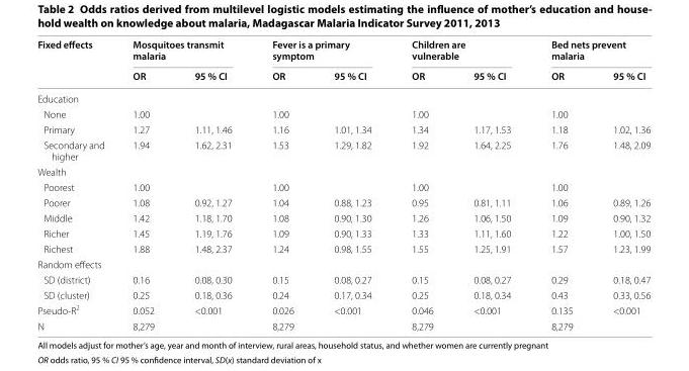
<table><thead><tr><td rowspan="2">Fixed effects</td><td colspan="2">Mosquitoes transmit malaria</td><td colspan="2">Fever is a primary symptom</td><td colspan="2">Children are vulnerable</td><td colspan="2">Bed nets prevent malaria</td></tr><tr><td>OR</td><td>95 % CI</td><td>OR</td><td>95 % CI</td><td>OR</td><td>95 % CI</td><td>OR</td><td>95 % CI</td></tr></thead><tbody><tr><td colspan="9">Education</td></tr><tr><td>None</td><td>1.00</td><td></td><td>1.00</td><td></td><td>1.00</td><td></td><td>1.00</td><td></td></tr><tr><td>Primary</td><td>1.27</td><td>1.11, 1.46</td><td>1.16</td><td>1.01, 1.34</td><td>1.34</td><td>1.17, 1.53</td><td>1.18</td><td>1.02, 1.36</td></tr><tr><td>Secondary and higher</td><td>1.94</td><td>1.62, 2.31</td><td>1.53</td><td>1.29, 1.82</td><td>1.92</td><td>1.64, 2.25</td><td>1.76</td><td>1.48, 2.09</td></tr><tr><td colspan="9">Wealth</td></tr><tr><td>Poorest</td><td>1.00</td><td></td><td>1.00</td><td></td><td>1.00</td><td></td><td>1.00</td><td></td></tr><tr><td>Poorer</td><td>1.08</td><td>0.92, 1.27</td><td>1.04</td><td>0.88, 1.23</td><td>0.95</td><td>0.81, 1.11</td><td>1.06</td><td>0.89, 1.26</td></tr><tr><td>Middle</td><td>1.42</td><td>1.18, 1.70</td><td>1.08</td><td>0.90, 1.30</td><td>1.26</td><td>1.06, 1.50</td><td>1.09</td><td>0.90, 1.32</td></tr><tr><td>Richer</td><td>1.45</td><td>1.19, 1.76</td><td>1.09</td><td>0.90, 1.33</td><td>1.33</td><td>1.11, 1.60</td><td>1.22</td><td>1.00, 1.50</td></tr><tr><td>Richest</td><td>1.88</td><td>1.48, 2.37</td><td>1.24</td><td>0.98, 1.55</td><td>1.55</td><td>1.25, 1.91</td><td>1.57</td><td>1.23, 1.99</td></tr><tr><td colspan="9">Random effects</td></tr><tr><td>SD (district)</td><td>0.16</td><td>0.08, 0.30</td><td>0.15</td><td>0.08, 0.27</td><td>0.15</td><td>0.08, 0.27</td><td>0.29</td><td>0.18, 0.47</td></tr><tr><td>SD (cluster)</td><td>0.25</td><td>0.18, 0.36</td><td>0.24</td><td>0.17, 0.34</td><td>0.25</td><td>0.18, 0.34</td><td>0.43</td><td>0.33, 0.56</td></tr><tr><td>Pseudo-R<sup>2</sup></td><td>0.052</td><td>&lt;0.001</td><td>0.026</td><td>&lt;0.001</td><td>0.046</td><td>&lt;0.001</td><td>0.135</td><td>&lt;0.001</td></tr><tr><td>N</td><td>8,279</td><td></td><td>8,279</td><td></td><td>8,279</td><td></td><td>8,279</td><td></td></tr></tbody></table>